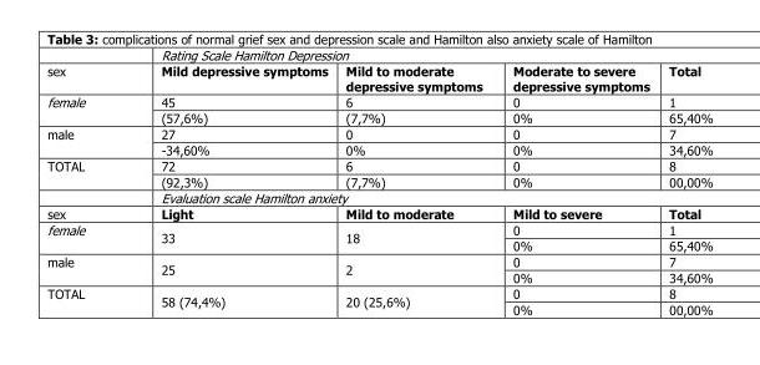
<table><thead><tr><td rowspan="2">sex</td><td colspan="4">Rating Scale Hamilton Depression</td></tr><tr><td>Mild depressive symptoms</td><td>Mild to moderate depressive symptoms</td><td>Moderate to severe depressive symptoms</td><td>Total</td></tr></thead><tbody><tr><td rowspan="2">female</td><td>45</td><td>6</td><td>0</td><td>1</td></tr><tr><td>(57,6%)</td><td>(7,7%)</td><td>0%</td><td>65,40%</td></tr><tr><td rowspan="2">male</td><td>27</td><td>0</td><td>0</td><td>7</td></tr><tr><td>-34,60%</td><td>0%</td><td>0%</td><td>34,60%</td></tr><tr><td rowspan="3">TOTAL</td><td>72</td><td>6</td><td>0</td><td>8</td></tr><tr><td>(92,3%)</td><td>(7,7%)</td><td>0%</td><td>00,00%</td></tr><tr><td colspan="4">Evaluation scale Hamilton anxiety</td></tr><tr><td>sex</td><td>Light</td><td>Mild to moderate</td><td>Mild to severe</td><td>Total</td></tr><tr><td rowspan="2">female</td><td rowspan="2">33</td><td rowspan="2">18</td><td>0</td><td>1</td></tr><tr><td>0%</td><td>65,40%</td></tr><tr><td rowspan="2">male</td><td rowspan="2">25</td><td rowspan="2">2</td><td>0</td><td>7</td></tr><tr><td>0%</td><td>34,60%</td></tr><tr><td rowspan="2">TOTAL</td><td rowspan="2">58 (74,4%)</td><td rowspan="2">20 (25,6%)</td><td>0</td><td>8</td></tr><tr><td>0%</td><td>00,00%</td></tr></tbody></table>